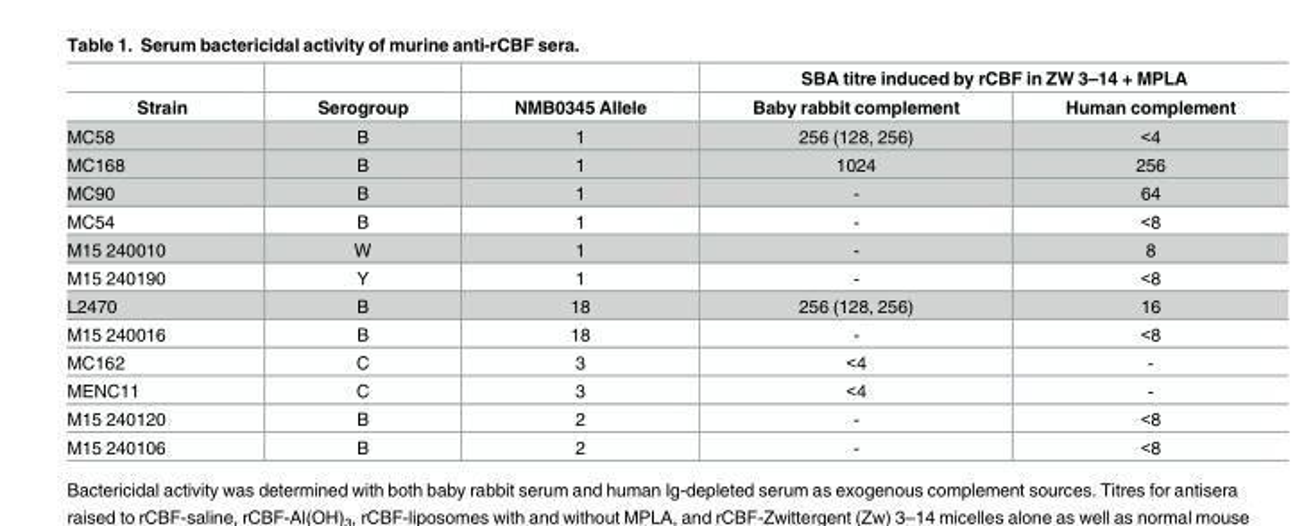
<table><thead><tr><td rowspan="2">Strain</td><td rowspan="2">Serogroup</td><td rowspan="2">NMB0345 Allele</td><td colspan="2">SBA titre induced by rCBF in ZW 3–14 + MPLA</td></tr><tr><td>Baby rabbit complement</td><td>Human complement</td></tr></thead><tbody><tr><td>MC58</td><td>B</td><td>1</td><td>256 (128, 256)</td><td>&lt;4</td></tr><tr><td>MC168</td><td>B</td><td>1</td><td>1024</td><td>256</td></tr><tr><td>MC90</td><td>B</td><td>1</td><td>-</td><td>64</td></tr><tr><td>MC54</td><td>B</td><td>1</td><td>-</td><td>&lt;8</td></tr><tr><td>M15 240010</td><td>W</td><td>1</td><td>-</td><td>8</td></tr><tr><td>M15 240190</td><td>Y</td><td>1</td><td>-</td><td>&lt;8</td></tr><tr><td>L2470</td><td>B</td><td>18</td><td>256 (128, 256)</td><td>16</td></tr><tr><td>M15 240016</td><td>B</td><td>18</td><td>-</td><td>&lt;8</td></tr><tr><td>MC162</td><td>C</td><td>3</td><td>&lt;4</td><td>-</td></tr><tr><td>MENC11</td><td>C</td><td>3</td><td>&lt;4</td><td>-</td></tr><tr><td>M15 240120</td><td>B</td><td>2</td><td>-</td><td>&lt;8</td></tr><tr><td>M15 240106</td><td>B</td><td>2</td><td>-</td><td>&lt;8</td></tr></tbody></table>